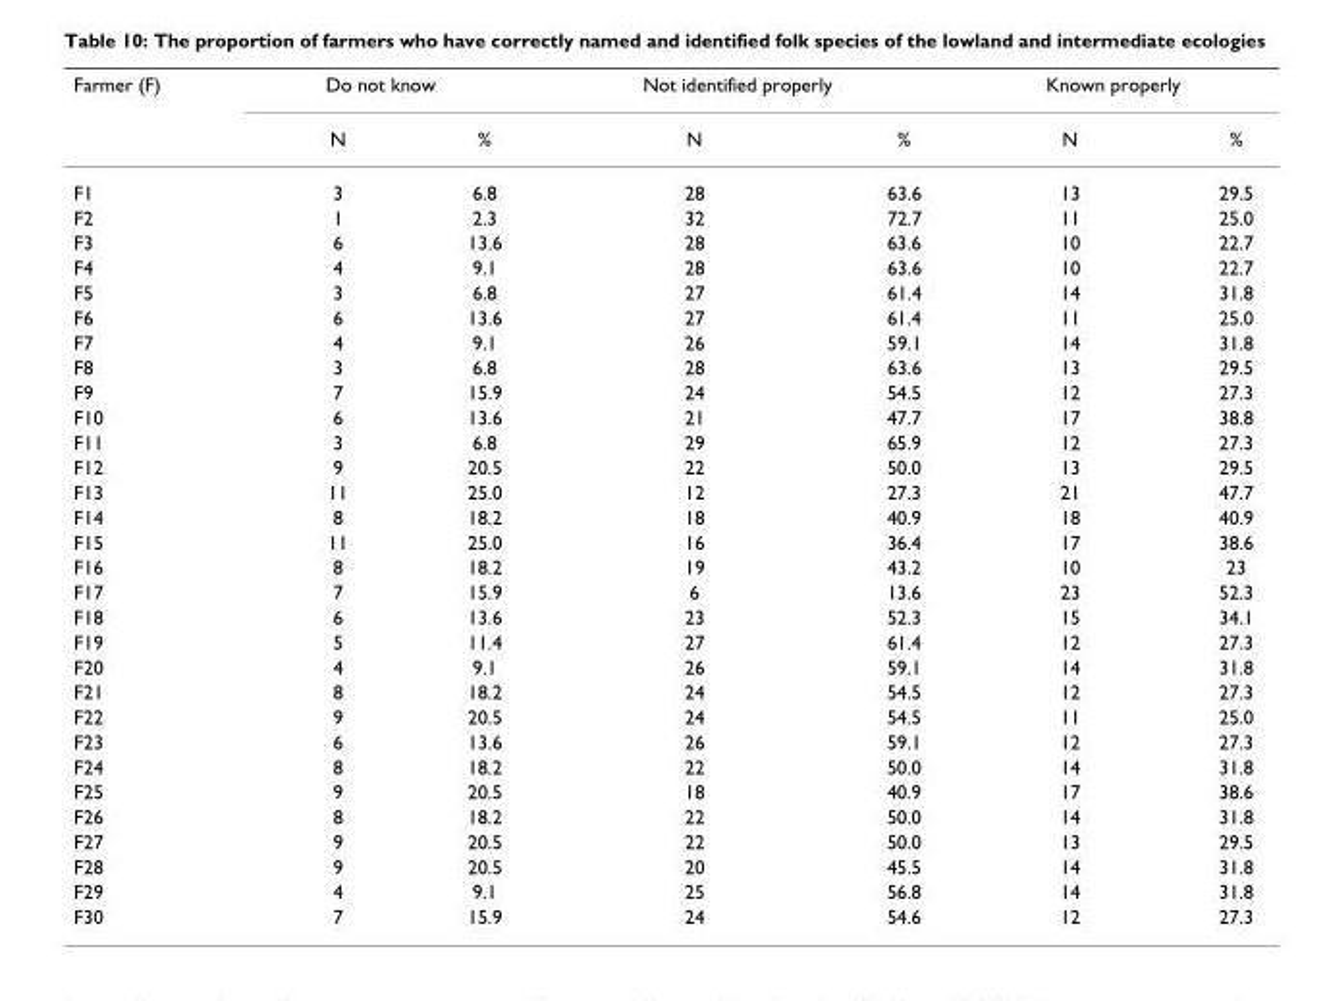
<table><thead><tr><td rowspan="2">Farmer (F)</td><td colspan="2">Do not know</td><td colspan="2">Not identified properly</td><td colspan="2">Known properly</td></tr><tr><td>N</td><td>%</td><td>N</td><td>%</td><td>N</td><td>%</td></tr></thead><tbody><tr><td>F1</td><td>3</td><td>6.8</td><td>28</td><td>63.6</td><td>13</td><td>29.5</td></tr><tr><td>F2</td><td>1</td><td>2.3</td><td>32</td><td>72.7</td><td>11</td><td>25.0</td></tr><tr><td>F3</td><td>6</td><td>13.6</td><td>28</td><td>63.6</td><td>10</td><td>22.7</td></tr><tr><td>F4</td><td>4</td><td>9.1</td><td>28</td><td>63.6</td><td>10</td><td>22.7</td></tr><tr><td>F5</td><td>3</td><td>6.8</td><td>27</td><td>61.4</td><td>14</td><td>31.8</td></tr><tr><td>F6</td><td>6</td><td>13.6</td><td>27</td><td>61.4</td><td>11</td><td>25.0</td></tr><tr><td>F7</td><td>4</td><td>9.1</td><td>26</td><td>59.1</td><td>14</td><td>31.8</td></tr><tr><td>F8</td><td>3</td><td>6.8</td><td>28</td><td>63.6</td><td>13</td><td>29.5</td></tr><tr><td>F9</td><td>7</td><td>15.9</td><td>24</td><td>54.5</td><td>12</td><td>27.3</td></tr><tr><td>F10</td><td>6</td><td>13.6</td><td>21</td><td>47.7</td><td>17</td><td>38.8</td></tr><tr><td>F11</td><td>3</td><td>6.8</td><td>29</td><td>65.9</td><td>12</td><td>27.3</td></tr><tr><td>F12</td><td>9</td><td>20.5</td><td>22</td><td>50.0</td><td>13</td><td>29.5</td></tr><tr><td>F13</td><td>11</td><td>25.0</td><td>12</td><td>27.3</td><td>21</td><td>47.7</td></tr><tr><td>F14</td><td>8</td><td>18.2</td><td>18</td><td>40.9</td><td>18</td><td>40.9</td></tr><tr><td>F15</td><td>11</td><td>25.0</td><td>16</td><td>36.4</td><td>17</td><td>38.6</td></tr><tr><td>F16</td><td>8</td><td>18.2</td><td>19</td><td>43.2</td><td>10</td><td>23</td></tr><tr><td>F17</td><td>7</td><td>15.9</td><td>6</td><td>13.6</td><td>23</td><td>52.3</td></tr><tr><td>F18</td><td>6</td><td>13.6</td><td>23</td><td>52.3</td><td>15</td><td>34.1</td></tr><tr><td>F19</td><td>5</td><td>11.4</td><td>27</td><td>61.4</td><td>12</td><td>27.3</td></tr><tr><td>F20</td><td>4</td><td>9.1</td><td>26</td><td>59.1</td><td>14</td><td>31.8</td></tr><tr><td>F21</td><td>8</td><td>18.2</td><td>24</td><td>54.5</td><td>12</td><td>27.3</td></tr><tr><td>F22</td><td>9</td><td>20.5</td><td>24</td><td>54.5</td><td>11</td><td>25.0</td></tr><tr><td>F23</td><td>6</td><td>13.6</td><td>26</td><td>59.1</td><td>12</td><td>27.3</td></tr><tr><td>F24</td><td>8</td><td>18.2</td><td>22</td><td>50.0</td><td>14</td><td>31.8</td></tr><tr><td>F25</td><td>9</td><td>20.5</td><td>18</td><td>40.9</td><td>17</td><td>38.6</td></tr><tr><td>F26</td><td>8</td><td>18.2</td><td>22</td><td>50.0</td><td>14</td><td>31.8</td></tr><tr><td>F27</td><td>9</td><td>20.5</td><td>22</td><td>50.0</td><td>13</td><td>29.5</td></tr><tr><td>F28</td><td>9</td><td>20.5</td><td>20</td><td>45.5</td><td>14</td><td>31.8</td></tr><tr><td>F29</td><td>4</td><td>9.1</td><td>25</td><td>56.8</td><td>14</td><td>31.8</td></tr><tr><td>F30</td><td>7</td><td>15.9</td><td>24</td><td>54.6</td><td>12</td><td>27.3</td></tr></tbody></table>